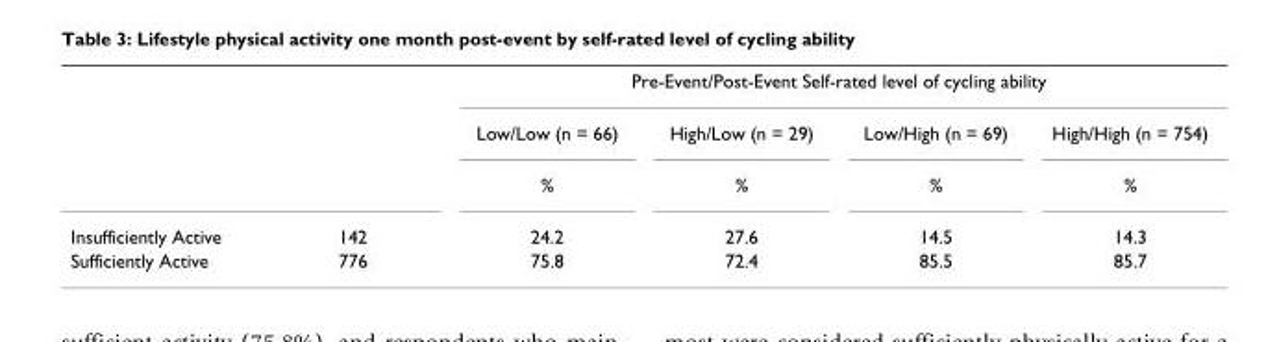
<table><thead><tr><td rowspan="2"></td><td rowspan="2"></td><td colspan="4">Pre-Event/Post-Event Self-rated level of cycling ability</td></tr><tr><td>Low/Low (n = 66)</td><td>High/Low (n = 29)</td><td>Low/High (n = 69)</td><td>High/High (n = 754)</td></tr></thead><tbody><tr><td></td><td></td><td>%</td><td>%</td><td>%</td><td>%</td></tr><tr><td>Insufficiently Active</td><td>142</td><td>24.2</td><td>27.6</td><td>14.5</td><td>14.3</td></tr><tr><td>Sufficiently Active</td><td>776</td><td>75.8</td><td>72.4</td><td>85.5</td><td>85.7</td></tr></tbody></table>